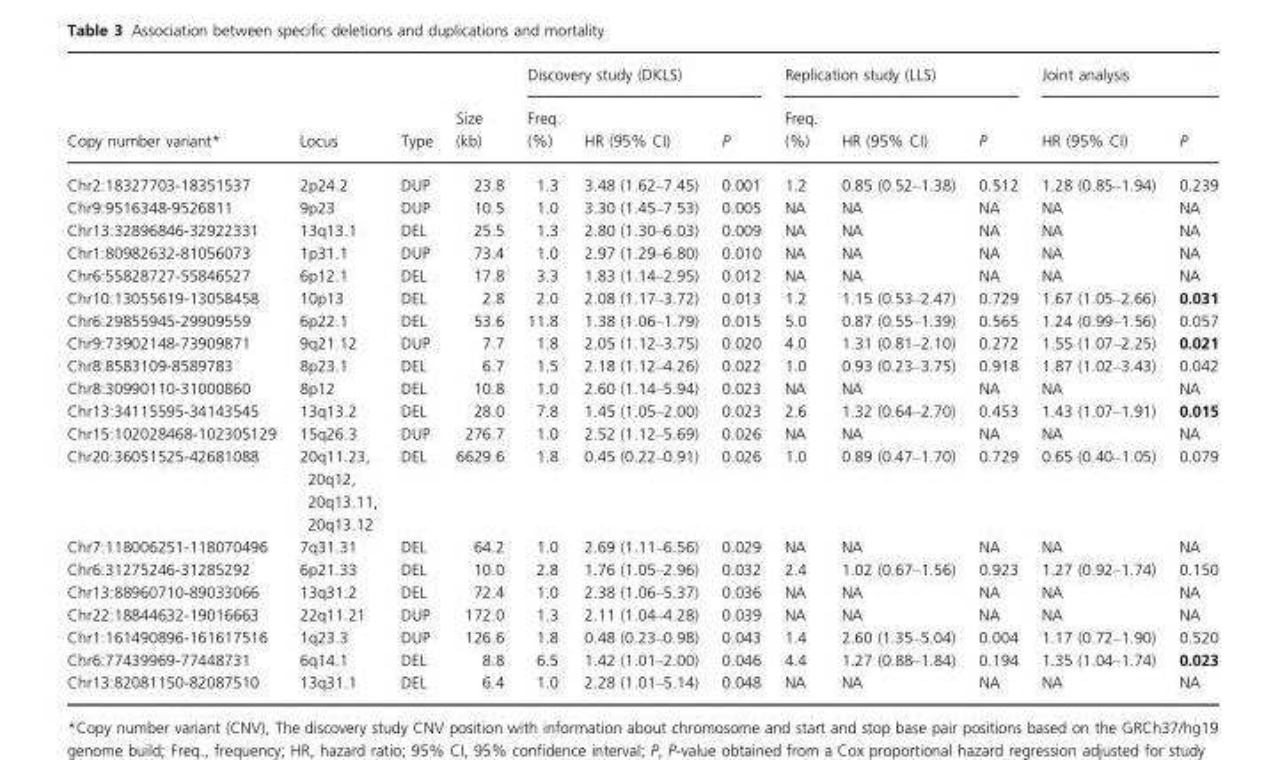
<table><thead><tr><td rowspan="2">Copy number variant*</td><td rowspan="2">Locus</td><td rowspan="2">Type</td><td rowspan="2">Size (kb)</td><td colspan="3">Discovery study (DKLS)</td><td colspan="3">Replication study (LLS)</td><td colspan="2">Joint analysis</td></tr><tr><td>Freq. (%)</td><td>HR (95% CI)</td><td>P</td><td>Freq. (%)</td><td>HR (95% CI)</td><td>P</td><td>HR (95% CI)</td><td>P</td></tr></thead><tbody><tr><td>Chr2:18327703-18351537</td><td>2p24.2</td><td>DUP</td><td>23.8</td><td>1.3</td><td>3.48 (1.62–7.45)</td><td>0.001</td><td>1.2</td><td>0.85 (0.52–1.38)</td><td>0.512</td><td>1.28 (0.85–1.94)</td><td>0.239</td></tr><tr><td>Chr9:9516348-9526811</td><td>9p23</td><td>DUP</td><td>10.5</td><td>1.0</td><td>3.30 (1.45–7.53)</td><td>0.005</td><td>NA</td><td>NA</td><td>NA</td><td>NA</td><td>NA</td></tr><tr><td>Chr13:32896846-32922331</td><td>13q13.1</td><td>DEL</td><td>25.5</td><td>1.3</td><td>2.80 (1.30–6.03)</td><td>0.009</td><td>NA</td><td>NA</td><td>NA</td><td>NA</td><td>NA</td></tr><tr><td>Chr1:80982632-81056073</td><td>1p31.1</td><td>DUP</td><td>73.4</td><td>1.0</td><td>2.97 (1.29–6.80)</td><td>0.010</td><td>NA</td><td>NA</td><td>NA</td><td>NA</td><td>NA</td></tr><tr><td>Chr6:55828727-55846527</td><td>6p12.1</td><td>DEL</td><td>17.8</td><td>3.3</td><td>1.83 (1.14–2.95)</td><td>0.012</td><td>NA</td><td>NA</td><td>NA</td><td>NA</td><td>NA</td></tr><tr><td>Chr10:13055619-13058458</td><td>10p13</td><td>DEL</td><td>2.8</td><td>2.0</td><td>2.08 (1.17–3.72)</td><td>0.013</td><td>1.2</td><td>1.15 (0.53–2.47)</td><td>0.729</td><td>1.67 (1.05–2.66)</td><td>0.031</td></tr><tr><td>Chr6:29855945-29909559</td><td>6p22.1</td><td>DEL</td><td>53.6</td><td>11.8</td><td>1.38 (1.06–1.79)</td><td>0.015</td><td>5.0</td><td>0.87 (0.55–1.39)</td><td>0.565</td><td>1.24 (0.99–1.56)</td><td>0.057</td></tr><tr><td>Chr9:73902148-73909871</td><td>9q21.12</td><td>DUP</td><td>7.7</td><td>1.8</td><td>2.05 (1.12–3.75)</td><td>0.020</td><td>4.0</td><td>1.31 (0.81–2.10)</td><td>0.272</td><td>1.55 (1.07–2.25)</td><td>0.021</td></tr><tr><td>Chr8:8583109-8589783</td><td>8p23.1</td><td>DEL</td><td>6.7</td><td>1.5</td><td>2.18 (1.12–4.26)</td><td>0.022</td><td>1.0</td><td>0.93 (0.23–3.75)</td><td>0.918</td><td>1.87 (1.02–3.43)</td><td>0.042</td></tr><tr><td>Chr8:30990110-31000860</td><td>8p12</td><td>DEL</td><td>10.8</td><td>1.0</td><td>2.60 (1.14–5.94)</td><td>0.023</td><td>NA</td><td>NA</td><td>NA</td><td>NA</td><td>NA</td></tr><tr><td>Chr13:34115595-34143545</td><td>13q13.2</td><td>DEL</td><td>28.0</td><td>7.8</td><td>1.45 (1.05–2.00)</td><td>0.023</td><td>2.6</td><td>1.32 (0.64–2.70)</td><td>0.453</td><td>1.43 (1.07–1.91)</td><td>0.015</td></tr><tr><td>Chr15:102028468-102305129</td><td>15q26.3</td><td>DUP</td><td>276.7</td><td>1.0</td><td>2.52 (1.12–5.69)</td><td>0.026</td><td>NA</td><td>NA</td><td>NA</td><td>NA</td><td>NA</td></tr><tr><td>Chr20:36051525-42681088</td><td>20q11.23, 20q12, 20q13.11, 20q13.12</td><td>DEL</td><td>6629.6</td><td>1.8</td><td>0.45 (0.22–0.91)</td><td>0.026</td><td>1.0</td><td>0.89 (0.47–1.70)</td><td>0.729</td><td>0.65 (0.40–1.05)</td><td>0.079</td></tr><tr><td>Chr7:118006251-118070496</td><td>7q31.31</td><td>DEL</td><td>64.2</td><td>1.0</td><td>2.69 (1.11–6.56)</td><td>0.029</td><td>NA</td><td>NA</td><td>NA</td><td>NA</td><td>NA</td></tr><tr><td>Chr6:31275246-31285292</td><td>6p21.33</td><td>DEL</td><td>10.0</td><td>2.8</td><td>1.76 (1.05–2.96)</td><td>0.032</td><td>2.4</td><td>1.02 (0.67–1.56)</td><td>0.923</td><td>1.27 (0.92–1.74)</td><td>0.150</td></tr><tr><td>Chr13:88960710-89033066</td><td>13q31.2</td><td>DEL</td><td>72.4</td><td>1.0</td><td>2.38 (1.06–5.37)</td><td>0.036</td><td>NA</td><td>NA</td><td>NA</td><td>NA</td><td>NA</td></tr><tr><td>Chr22:18844632-19016663</td><td>22q11.21</td><td>DUP</td><td>172.0</td><td>1.3</td><td>2.11 (1.04–4.28)</td><td>0.039</td><td>NA</td><td>NA</td><td>NA</td><td>NA</td><td>NA</td></tr><tr><td>Chr1:161490896-161617516</td><td>1q23.3</td><td>DUP</td><td>126.6</td><td>1.8</td><td>0.48 (0.23–0.98)</td><td>0.043</td><td>1.4</td><td>2.60 (1.35–5.04)</td><td>0.004</td><td>1.17 (0.72–1.90)</td><td>0.520</td></tr><tr><td>Chr6:77439969-77448731</td><td>6q14.1</td><td>DEL</td><td>8.8</td><td>6.5</td><td>1.42 (1.01–2.00)</td><td>0.046</td><td>4.4</td><td>1.27 (0.88–1.84)</td><td>0.194</td><td>1.35 (1.04–1.74)</td><td>0.023</td></tr><tr><td>Chr13:82081150-82087510</td><td>13q31.1</td><td>DEL</td><td>6.4</td><td>1.0</td><td>2.28 (1.01–5.14)</td><td>0.048</td><td>NA</td><td>NA</td><td>NA</td><td>NA</td><td>NA</td></tr></tbody></table>